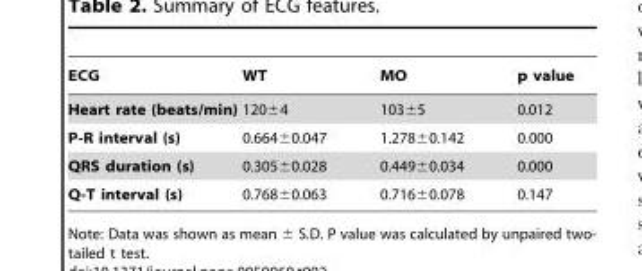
<table><thead><tr><td>ECG</td><td>WT</td><td>MO</td><td>p value</td></tr></thead><tbody><tr><td>Heart rate (beats/min)</td><td>120±4</td><td>103±5</td><td>0.012</td></tr><tr><td>P-R interval (s)</td><td>0.664±0.047</td><td>1.278±0.142</td><td>0.000</td></tr><tr><td>QRS duration (s)</td><td>0.305±0.028</td><td>0.449±0.034</td><td>0.000</td></tr><tr><td>Q-T interval (s)</td><td>0.768±0.063</td><td>0.716±0.078</td><td>0.147</td></tr></tbody></table>